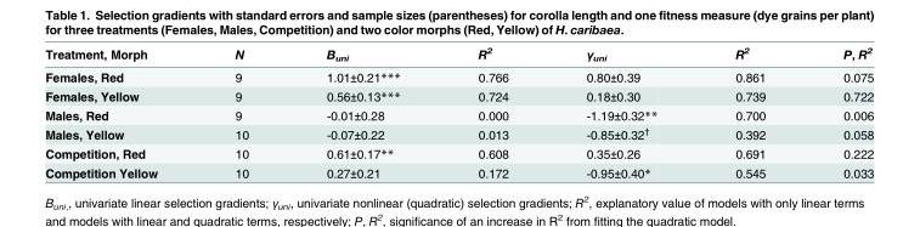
<table><thead><tr><td>Treatment, Morph</td><td>N</td><td>B<sub>uni</sub></td><td>R<sup>2</sup></td><td>γ<sub>uni</sub></td><td>R<sup>2</sup></td><td>P, R<sup>2</sup></td></tr></thead><tbody><tr><td>Females, Red</td><td>9</td><td>1.01±0.21***</td><td>0.766</td><td>0.80±0.39</td><td>0.861</td><td>0.075</td></tr><tr><td>Females, Yellow</td><td>9</td><td>0.56±0.13***</td><td>0.724</td><td>0.18±0.30</td><td>0.739</td><td>0.722</td></tr><tr><td>Males, Red</td><td>9</td><td>-0.01±0.28</td><td>0.000</td><td>-1.19±0.32**</td><td>0.700</td><td>0.006</td></tr><tr><td>Males, Yellow</td><td>10</td><td>-0.07±0.22</td><td>0.013</td><td>-0.85±0.32<sup>†</sup></td><td>0.392</td><td>0.058</td></tr><tr><td>Competition, Red</td><td>10</td><td>0.61±0.17**</td><td>0.608</td><td>0.35±0.26</td><td>0.691</td><td>0.222</td></tr><tr><td>Competition Yellow</td><td>10</td><td>0.27±0.21</td><td>0.172</td><td>-0.95±0.40*</td><td>0.545</td><td>0.033</td></tr></tbody></table>